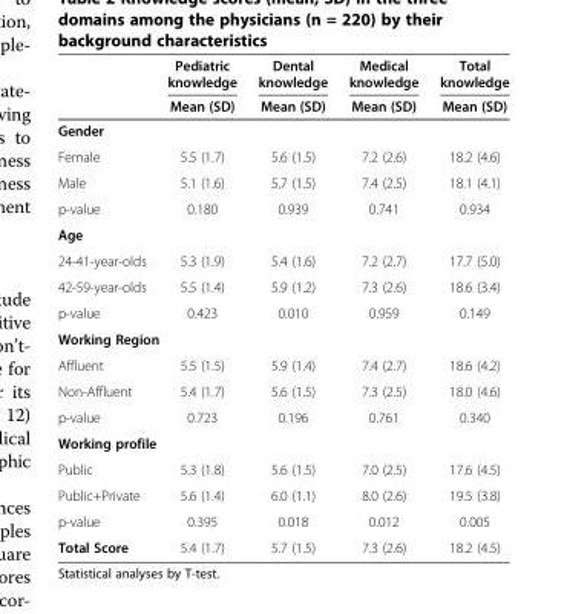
<table><thead><tr><td rowspan="2"></td><td rowspan="2">Pediatric knowledge Mean (SD)</td><td rowspan="2">Dental knowledge Mean (SD)</td><td rowspan="2">Medical knowledge Mean (SD)</td><td rowspan="2">Total knowledge Mean (SD)</td></tr><tr></tr></thead><tbody><tr><td colspan="5">Gender</td></tr><tr><td>Female</td><td>5.5 (1.7)</td><td>5.6 (1.5)</td><td>7.2 (2.6)</td><td>18.2 (4.6)</td></tr><tr><td>Male</td><td>5.1 (1.6)</td><td>5.7 (1.5)</td><td>7.4 (2.5)</td><td>18.1 (4.1)</td></tr><tr><td>p-value</td><td>0.180</td><td>0.939</td><td>0.741</td><td>0.934</td></tr><tr><td colspan="5">Age</td></tr><tr><td>24-41-year-olds</td><td>5.3 (1.9)</td><td>5.4 (1.6)</td><td>7.2 (2.7)</td><td>17.7 (5.0)</td></tr><tr><td>42-59-year-olds</td><td>5.5 (1.4)</td><td>5.9 (1.2)</td><td>7.3 (2.6)</td><td>18.6 (3.4)</td></tr><tr><td>p-value</td><td>0.423</td><td>0.010</td><td>0.959</td><td>0.149</td></tr><tr><td colspan="5">Working Region</td></tr><tr><td>Affluent</td><td>5.5 (1.5)</td><td>5.9 (1.4)</td><td>7.4 (2.7)</td><td>18.6 (4.2)</td></tr><tr><td>Non-Affluent</td><td>5.4 (1.7)</td><td>5.6 (1.5)</td><td>7.3 (2.5)</td><td>18.0 (4.6)</td></tr><tr><td>p-value</td><td>0.723</td><td>0.196</td><td>0.761</td><td>0.340</td></tr><tr><td colspan="5">Working profile</td></tr><tr><td>Public</td><td>5.3 (1.8)</td><td>5.6 (1.5)</td><td>7.0 (2.5)</td><td>17.6 (4.5)</td></tr><tr><td>Public+Private</td><td>5.6 (1.4)</td><td>6.0 (1.1)</td><td>8.0 (2.6)</td><td>19.5 (3.8)</td></tr><tr><td>p-value</td><td>0.395</td><td>0.018</td><td>0.012</td><td>0.005</td></tr><tr><td>Total Score</td><td>5.4 (1.7)</td><td>5.7 (1.5)</td><td>7.3 (2.6)</td><td>18.2 (4.5)</td></tr></tbody></table>